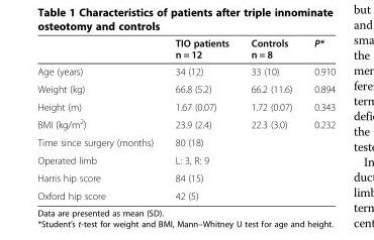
<table><thead><tr><td></td><td>TIO patients n = 12</td><td>Controls n = 8</td><td>P*</td></tr></thead><tbody><tr><td>Age (years)</td><td>34 (12)</td><td>33 (10)</td><td>0.910</td></tr><tr><td>Weight (kg)</td><td>66.8 (5.2)</td><td>66.2 (11.6)</td><td>0.894</td></tr><tr><td>Height (m)</td><td>1.67 (0.07)</td><td>1.72 (0.07)</td><td>0.343</td></tr><tr><td>BMI (kg/m<sup>2</sup>)</td><td>23.9 (2.4)</td><td>22.3 (3.0)</td><td>0.232</td></tr><tr><td>Time since surgery (months)</td><td>80 (18)</td><td></td><td></td></tr><tr><td>Operated limb</td><td>L: 3, R: 9</td><td></td><td></td></tr><tr><td>Harris hip score</td><td>84 (15)</td><td></td><td></td></tr><tr><td>Oxford hip score</td><td>42 (5)</td><td></td><td></td></tr></tbody></table>